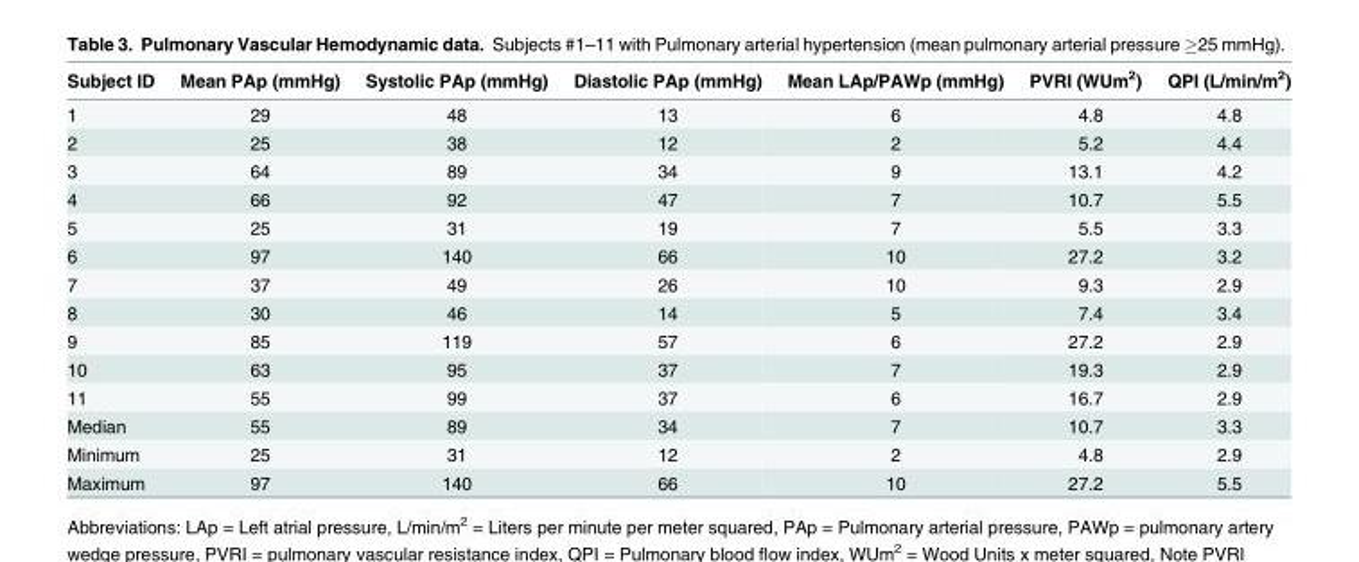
<table><thead><tr><td>Subject ID</td><td>Mean PAp (mmHg)</td><td>Systolic PAp (mmHg)</td><td>Diastolic PAp (mmHg)</td><td>Mean LAp/PAWp (mmHg)</td><td>PVRI (WUm<sup>2</sup>)</td><td>QPI (L/min/m<sup>2</sup>)</td></tr></thead><tbody><tr><td>1</td><td>29</td><td>48</td><td>13</td><td>6</td><td>4.8</td><td>4.8</td></tr><tr><td>2</td><td>25</td><td>38</td><td>12</td><td>2</td><td>5.2</td><td>4.4</td></tr><tr><td>3</td><td>64</td><td>89</td><td>34</td><td>9</td><td>13.1</td><td>4.2</td></tr><tr><td>4</td><td>66</td><td>92</td><td>47</td><td>7</td><td>10.7</td><td>5.5</td></tr><tr><td>5</td><td>25</td><td>31</td><td>19</td><td>7</td><td>5.5</td><td>3.3</td></tr><tr><td>6</td><td>97</td><td>140</td><td>66</td><td>10</td><td>27.2</td><td>3.2</td></tr><tr><td>7</td><td>37</td><td>49</td><td>26</td><td>10</td><td>9.3</td><td>2.9</td></tr><tr><td>8</td><td>30</td><td>46</td><td>14</td><td>5</td><td>7.4</td><td>3.4</td></tr><tr><td>9</td><td>85</td><td>119</td><td>57</td><td>6</td><td>27.2</td><td>2.9</td></tr><tr><td>10</td><td>63</td><td>95</td><td>37</td><td>7</td><td>19.3</td><td>2.9</td></tr><tr><td>11</td><td>55</td><td>99</td><td>37</td><td>6</td><td>16.7</td><td>2.9</td></tr><tr><td>Median</td><td>55</td><td>89</td><td>34</td><td>7</td><td>10.7</td><td>3.3</td></tr><tr><td>Minimum</td><td>25</td><td>31</td><td>12</td><td>2</td><td>4.8</td><td>2.9</td></tr><tr><td>Maximum</td><td>97</td><td>140</td><td>66</td><td>10</td><td>27.2</td><td>5.5</td></tr></tbody></table>